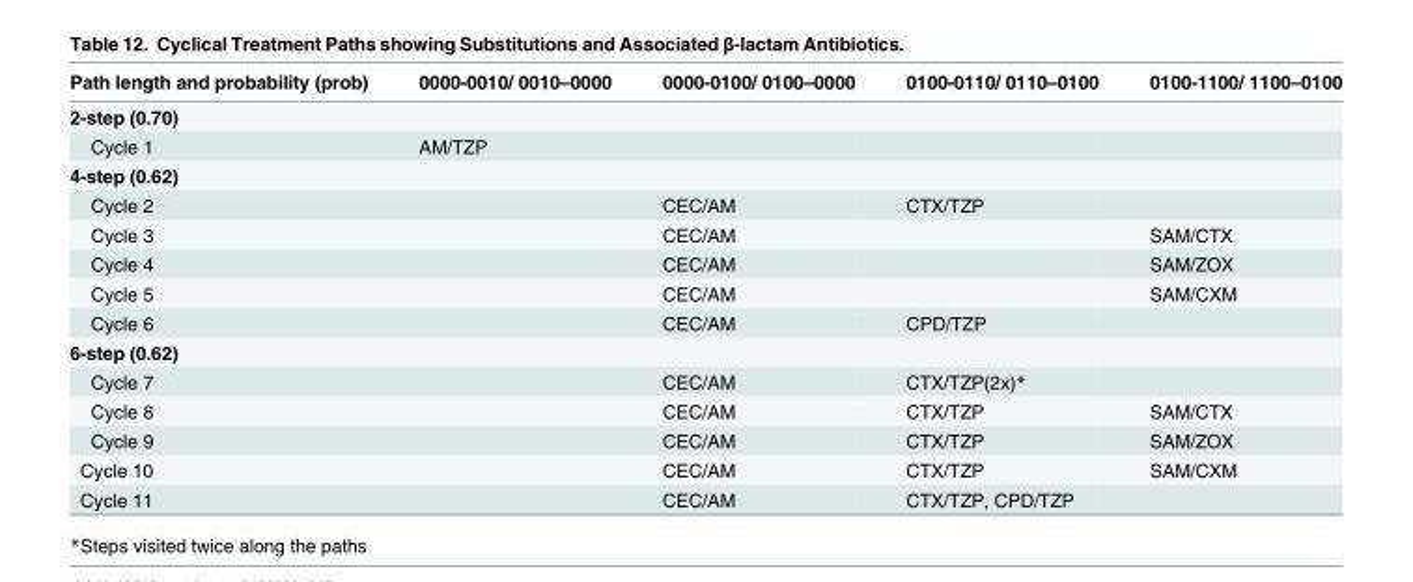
<table><thead><tr><td>Path length and probability (prob)</td><td>0000-0010/ 0010–0000</td><td>0000-0100/ 0100–0000</td><td>0100-0110/ 0110–0100</td><td>0100-1100/ 1100–0100</td></tr></thead><tbody><tr><td colspan="5">2-step (0.70)</td></tr><tr><td>Cycle 1</td><td>AM/TZP</td><td></td><td></td><td></td></tr><tr><td colspan="5">4-step (0.62)</td></tr><tr><td>Cycle 2</td><td></td><td>CEC/AM</td><td>CTX/TZP</td><td></td></tr><tr><td>Cycle 3</td><td></td><td>CEC/AM</td><td></td><td>SAM/CTX</td></tr><tr><td>Cycle 4</td><td></td><td>CEC/AM</td><td></td><td>SAM/ZOX</td></tr><tr><td>Cycle 5</td><td></td><td>CEC/AM</td><td></td><td>SAM/CXM</td></tr><tr><td>Cycle 6</td><td></td><td>CEC/AM</td><td>CPD/TZP</td><td></td></tr><tr><td colspan="5">6-step (0.62)</td></tr><tr><td>Cycle 7</td><td></td><td>CEC/AM</td><td>CTX/TZP(2x)*</td><td></td></tr><tr><td>Cycle 8</td><td></td><td>CEC/AM</td><td>CTX/TZP</td><td>SAM/CTX</td></tr><tr><td>Cycle 9</td><td></td><td>CEC/AM</td><td>CTX/TZP</td><td>SAM/ZOX</td></tr><tr><td>Cycle 10</td><td></td><td>CEC/AM</td><td>CTX/TZP</td><td>SAM/CXM</td></tr><tr><td>Cycle 11</td><td></td><td>CEC/AM</td><td>CTX/TZP, CPD/TZP</td><td></td></tr></tbody></table>